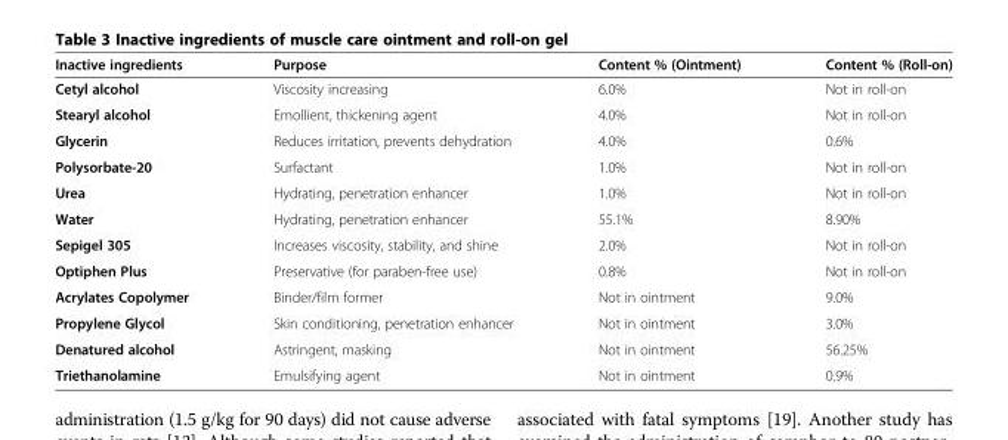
<table><thead><tr><td>Inactive ingredients</td><td>Purpose</td><td>Content % (Ointment)</td><td>Content % (Roll-on)</td></tr></thead><tbody><tr><td>Cetyl alcohol</td><td>Viscosity increasing</td><td>6.0%</td><td>Not in roll-on</td></tr><tr><td>Stearyl alcohol</td><td>Emollient, thickening agent</td><td>4.0%</td><td>Not in roll-on</td></tr><tr><td>Glycerin</td><td>Reduces irritation, prevents dehydration</td><td>4.0%</td><td>0.6%</td></tr><tr><td>Polysorbate-20</td><td>Surfactant</td><td>1.0%</td><td>Not in roll-on</td></tr><tr><td>Urea</td><td>Hydrating, penetration enhancer</td><td>1.0%</td><td>Not in roll-on</td></tr><tr><td>Water</td><td>Hydrating, penetration enhancer</td><td>55.1%</td><td>8.90%</td></tr><tr><td>Sepigel 305</td><td>Increases viscosity, stability, and shine</td><td>2.0%</td><td>Not in roll-on</td></tr><tr><td>Optiphen Plus</td><td>Preservative (for paraben-free use)</td><td>0.8%</td><td>Not in roll-on</td></tr><tr><td>Acrylates Copolymer</td><td>Binder/film former</td><td>Not in ointment</td><td>9.0%</td></tr><tr><td>Propylene Glycol</td><td>Skin conditioning, penetration enhancer</td><td>Not in ointment</td><td>3.0%</td></tr><tr><td>Denatured alcohol</td><td>Astringent, masking</td><td>Not in ointment</td><td>56.25%</td></tr><tr><td>Triethanolamine</td><td>Emulsifying agent</td><td>Not in ointment</td><td>0.9%</td></tr></tbody></table>